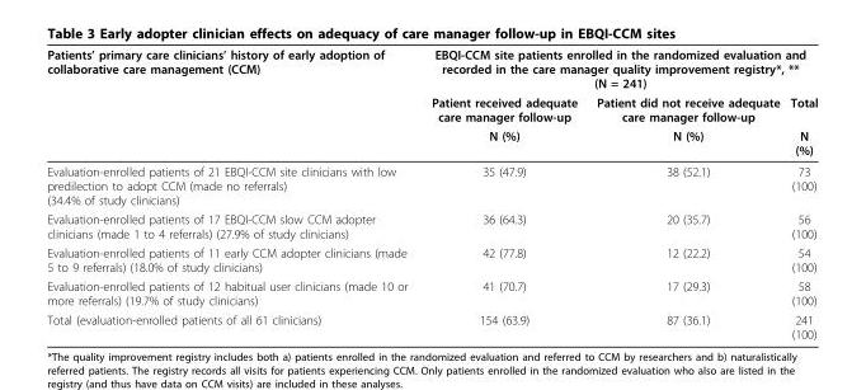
<table><thead><tr><td rowspan="3">Patients’ primary care clinicians’ history of early adoption of collaborative care management (CCM)</td><td colspan="3">EBQI-CCM site patients enrolled in the randomized evaluation and recorded in the care manager quality improvement registry*, ** (N = 241)</td></tr><tr><td rowspan="2">Patient received adequate care manager follow-up N (%)</td><td rowspan="2">Patient did not receive adequate care manager follow-up N (%)</td><td rowspan="2">Total N (%)</td></tr><tr></tr></thead><tbody><tr><td>Evaluation-enrolled patients of 21 EBQI-CCM site clinicians with low predilection to adopt CCM (made no referrals) (34.4% of study clinicians)</td><td>35 (47.9)</td><td>38 (52.1)</td><td>73 (100)</td></tr><tr><td>Evaluation-enrolled patients of 17 EBQI-CCM slow CCM adopter clinicians (made 1 to 4 referrals) (27.9% of study clinicians)</td><td>36 (64.3)</td><td>20 (35.7)</td><td>56 (100)</td></tr><tr><td>Evaluation-enrolled patients of 11 early CCM adopter clinicians (made 5 to 9 referrals) (18.0% of study clinicians)</td><td>42 (77.8)</td><td>12 (22.2)</td><td>54 (100)</td></tr><tr><td>Evaluation-enrolled patients of 12 habitual user clinicians (made 10 or more referrals) (19.7% of study clinicians)</td><td>41 (70.7)</td><td>17 (29.3)</td><td>58 (100)</td></tr><tr><td>Total (evaluation-enrolled patients of all 61 clinicians)</td><td>154 (63.9)</td><td>87 (36.1)</td><td>241 (100)</td></tr></tbody></table>